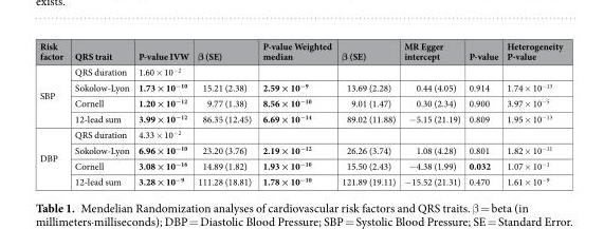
<table><thead><tr><td>Risk factor</td><td>QRS trait</td><td>P-value IVW</td><td>β (SE)</td><td>P-value Weighted median</td><td>β (SE)</td><td>MR Egger intercept</td><td>P-value</td><td>Heterogeneity P-value</td></tr></thead><tbody><tr><td rowspan="4">SBP</td><td>QRS duration</td><td>1.60 × 10<sup>−2</sup></td><td></td><td></td><td></td><td></td><td></td><td></td></tr><tr><td>Sokolow-Lyon</td><td>1.73 × 10<sup>−10</sup></td><td>15.21 (2.38)</td><td>2.59 × 10<sup>−9</sup></td><td>13.69 (2.28)</td><td>0.44 (4.05)</td><td>0.914</td><td>1.74 × 10<sup>−13</sup></td></tr><tr><td>Cornell</td><td>1.20 × 10<sup>−12</sup></td><td>9.77 (1.38)</td><td>8.56 × 10<sup>−10</sup></td><td>9.01 (1.47)</td><td>0.30 (2.34)</td><td>0.900</td><td>3.97 × 10<sup>−5</sup></td></tr><tr><td>12-lead sum</td><td>3.99 × 10<sup>−12</sup></td><td>86.35 (12.45)</td><td>6.69 × 10<sup>−14</sup></td><td>89.02 (11.88)</td><td>−5.15 (21.19)</td><td>0.809</td><td>1.95 × 10<sup>−13</sup></td></tr><tr><td rowspan="4">DBP</td><td>QRS duration</td><td>4.33 × 10<sup>−2</sup></td><td></td><td></td><td></td><td></td><td></td><td></td></tr><tr><td>Sokolow-Lyon</td><td>6.96 × 10<sup>−10</sup></td><td>23.20 (3.76)</td><td>2.19 × 10<sup>−12</sup></td><td>26.26 (3.74)</td><td>1.08 (4.28)</td><td>0.801</td><td>1.82 × 10<sup>−11</sup></td></tr><tr><td>Cornell</td><td>3.08 × 10<sup>−16</sup></td><td>14.89 (1.82)</td><td>1.93 × 10<sup>−10</sup></td><td>15.50 (2.43)</td><td>−4.38 (1.99)</td><td>0.032</td><td>1.07 × 10<sup>−1</sup></td></tr><tr><td>12-lead sum</td><td>3.28 × 10<sup>−9</sup></td><td>111.28 (18.81)</td><td>1.78 × 10<sup>−10</sup></td><td>121.89 (19.11)</td><td>−15.52 (21.31)</td><td>0.470</td><td>1.61 × 10<sup>−9</sup></td></tr></tbody></table>